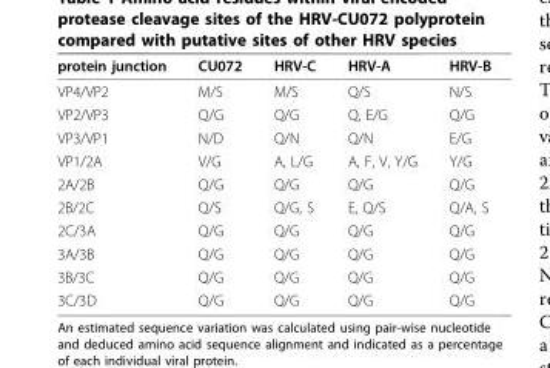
<table><thead><tr><td>protein junction</td><td>CU072</td><td>HRV-C</td><td>HRV-A</td><td>HRV-B</td></tr></thead><tbody><tr><td>VP4/VP2</td><td>M/S</td><td>M/S</td><td>Q/S</td><td>N/S</td></tr><tr><td>VP2/VP3</td><td>Q/G</td><td>Q/G</td><td>Q, E/G</td><td>Q/G</td></tr><tr><td>VP3/VP1</td><td>N/D</td><td>Q/N</td><td>Q/N</td><td>E/G</td></tr><tr><td>VP1/2A</td><td>V/G</td><td>A, L/G</td><td>A, F, V, Y/G</td><td>Y/G</td></tr><tr><td>2A/2B</td><td>Q/G</td><td>Q/G</td><td>Q/G</td><td>Q/G</td></tr><tr><td>2B/2C</td><td>Q/S</td><td>Q/G, S</td><td>E, Q/S</td><td>Q/A, S</td></tr><tr><td>2C/3A</td><td>Q/G</td><td>Q/G</td><td>Q/G</td><td>Q/G</td></tr><tr><td>3A/3B</td><td>Q/G</td><td>Q/G</td><td>Q/G</td><td>Q/G</td></tr><tr><td>3B/3C</td><td>Q/G</td><td>Q/G</td><td>Q/G</td><td>Q/G</td></tr><tr><td>3C/3D</td><td>Q/G</td><td>Q/G</td><td>Q/G</td><td>Q/G</td></tr></tbody></table>